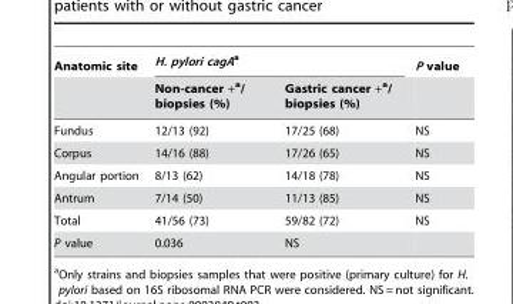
<table><thead><tr><td rowspan="2">Anatomic site</td><td colspan="2">H. pylori cagAa</td><td rowspan="2">P value</td></tr><tr><td>Non-cancer +<sup>a</sup>/ biopsies (%)</td><td>Gastric cancer +<sup>a</sup>/ biopsies (%)</td></tr></thead><tbody><tr><td>Fundus</td><td>12/13 (92)</td><td>17/25 (68)</td><td>NS</td></tr><tr><td>Corpus</td><td>14/16 (88)</td><td>17/26 (65)</td><td>NS</td></tr><tr><td>Angular portion</td><td>8/13 (62)</td><td>14/18 (78)</td><td>NS</td></tr><tr><td>Antrum</td><td>7/14 (50)</td><td>11/13 (85)</td><td>NS</td></tr><tr><td>Total</td><td>41/56 (73)</td><td>59/82 (72)</td><td>NS</td></tr><tr><td>P value</td><td>0.036</td><td>NS</td><td></td></tr></tbody></table>